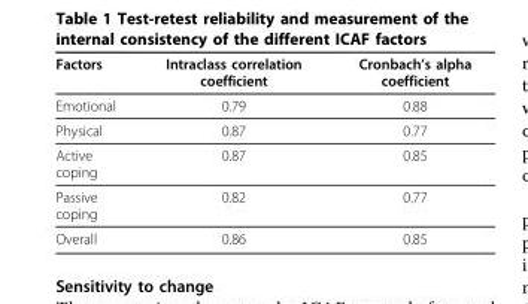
<table><thead><tr><td>Factors</td><td>Intraclass correlation coefficient</td><td>Cronbach’s alpha coefficient</td></tr></thead><tbody><tr><td>Emotional</td><td>0.79</td><td>0.88</td></tr><tr><td>Physical</td><td>0.87</td><td>0.77</td></tr><tr><td>Active coping</td><td>0.87</td><td>0.85</td></tr><tr><td>Passive coping</td><td>0.82</td><td>0.77</td></tr><tr><td>Overall</td><td>0.86</td><td>0.85</td></tr></tbody></table>